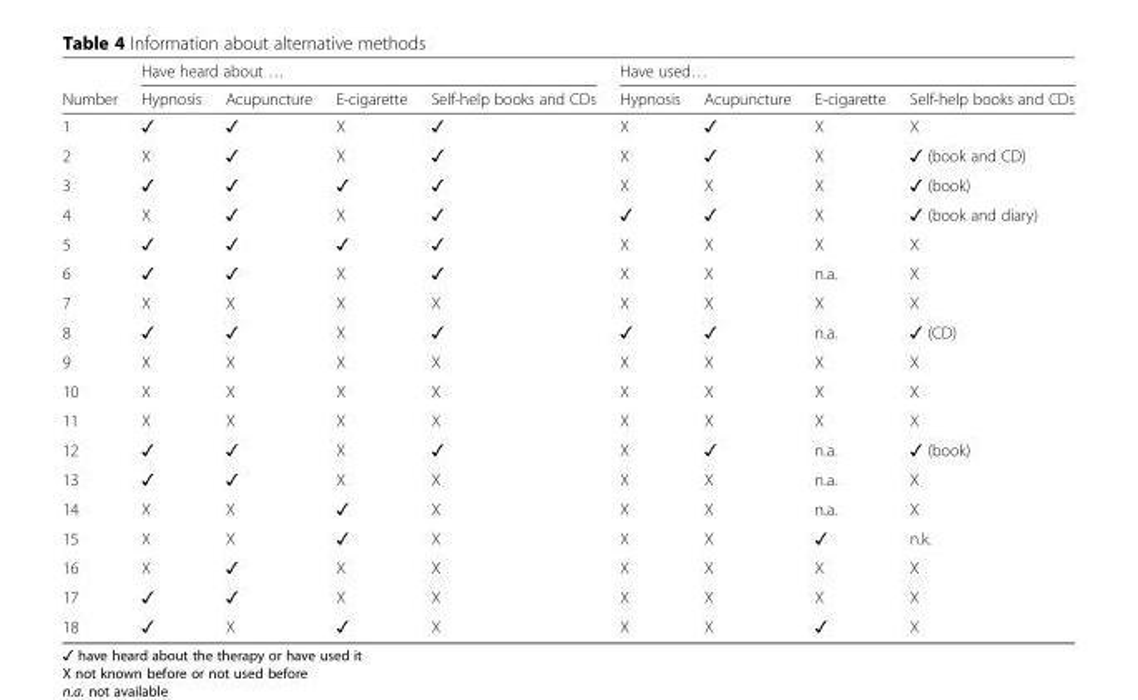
<table><thead><tr><td rowspan="2">Number</td><td colspan="4">Have heard about …</td><td colspan="4">Have used…</td></tr><tr><td>Hypnosis</td><td>Acupuncture</td><td>E-cigarette</td><td>Self-help books and CDs</td><td>Hypnosis</td><td>Acupuncture</td><td>E-cigarette</td><td>Self-help books and CDs</td></tr></thead><tbody><tr><td>1</td><td>✓</td><td>✓</td><td>X</td><td>✓</td><td>X</td><td>✓</td><td>X</td><td>X</td></tr><tr><td>2</td><td>X</td><td>✓</td><td>X</td><td>✓</td><td>X</td><td>✓</td><td>X</td><td>✓ (book and CD)</td></tr><tr><td>3</td><td>✓</td><td>✓</td><td>✓</td><td>✓</td><td>X</td><td>X</td><td>X</td><td>✓ (book)</td></tr><tr><td>4</td><td>X</td><td>✓</td><td>X</td><td>✓</td><td>✓</td><td>✓</td><td>X</td><td>✓ (book and diary)</td></tr><tr><td>5</td><td>✓</td><td>✓</td><td>✓</td><td>✓</td><td>X</td><td>X</td><td>X</td><td>X</td></tr><tr><td>6</td><td>✓</td><td>✓</td><td>X</td><td>✓</td><td>X</td><td>X</td><td>n.a.</td><td>X</td></tr><tr><td>7</td><td>X</td><td>X</td><td>X</td><td>X</td><td>X</td><td>X</td><td>X</td><td>X</td></tr><tr><td>8</td><td>✓</td><td>✓</td><td>X</td><td>✓</td><td>✓</td><td>✓</td><td>n.a.</td><td>✓ (CD)</td></tr><tr><td>9</td><td>X</td><td>X</td><td>X</td><td>X</td><td>X</td><td>X</td><td>X</td><td>X</td></tr><tr><td>10</td><td>X</td><td>X</td><td>X</td><td>X</td><td>X</td><td>X</td><td>X</td><td>X</td></tr><tr><td>11</td><td>X</td><td>X</td><td>X</td><td>X</td><td>X</td><td>X</td><td>X</td><td>X</td></tr><tr><td>12</td><td>✓</td><td>✓</td><td>X</td><td>✓</td><td>X</td><td>✓</td><td>n.a.</td><td>✓ (book)</td></tr><tr><td>13</td><td>✓</td><td>✓</td><td>X</td><td>X</td><td>X</td><td>X</td><td>n.a.</td><td>X</td></tr><tr><td>14</td><td>X</td><td>X</td><td>✓</td><td>X</td><td>X</td><td>X</td><td>n.a.</td><td>X</td></tr><tr><td>15</td><td>X</td><td>X</td><td>✓</td><td>X</td><td>X</td><td>X</td><td>✓</td><td>n.k.</td></tr><tr><td>16</td><td>X</td><td>✓</td><td>X</td><td>X</td><td>X</td><td>X</td><td>X</td><td>X</td></tr><tr><td>17</td><td>✓</td><td>✓</td><td>X</td><td>X</td><td>X</td><td>X</td><td>X</td><td>X</td></tr><tr><td>18</td><td>✓</td><td>X</td><td>✓</td><td>X</td><td>X</td><td>X</td><td>✓</td><td>X</td></tr></tbody></table>